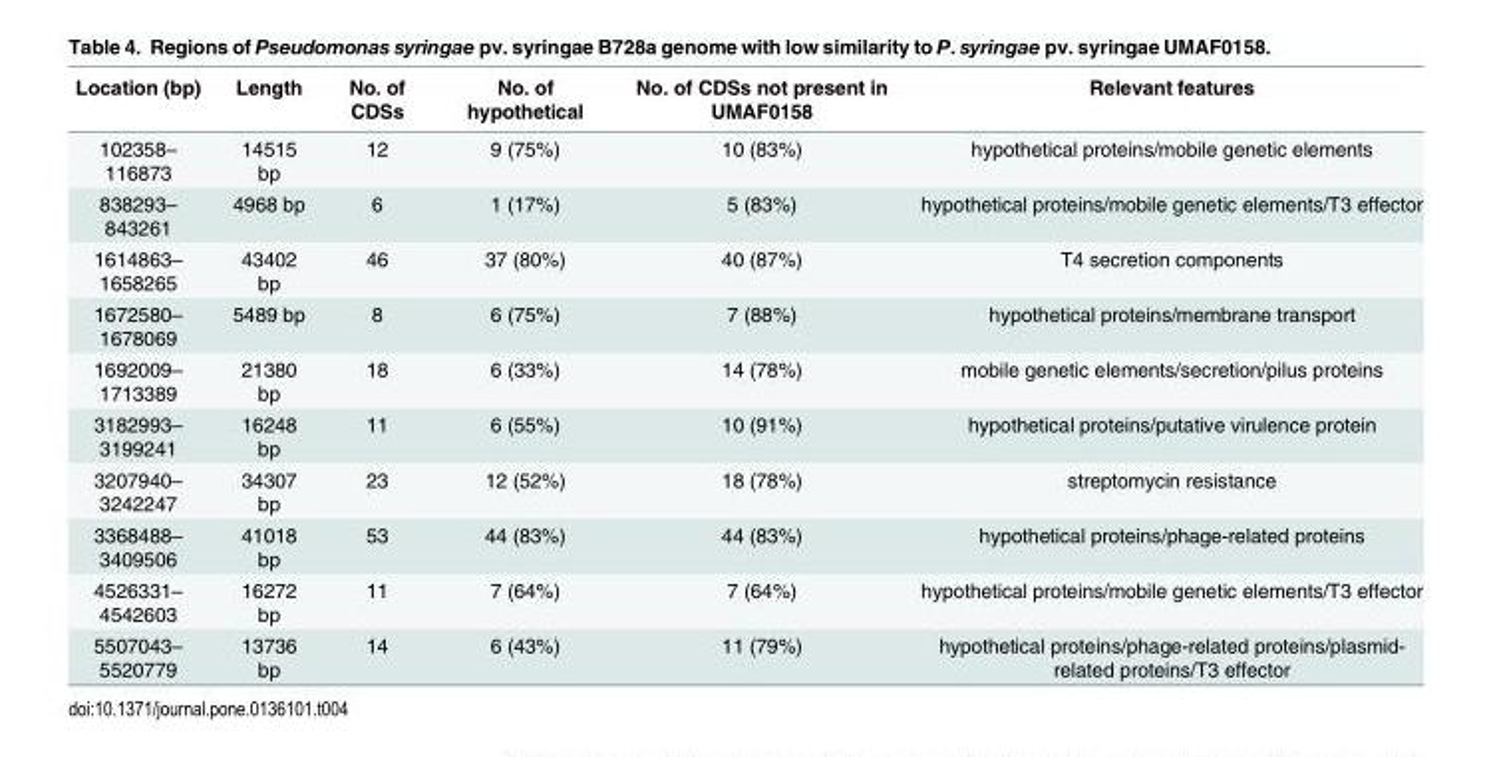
<table><thead><tr><td>Location (bp)</td><td>Length</td><td>No. of CDSs</td><td>No. of hypothetical</td><td>No. of CDSs not present in UMAF0158</td><td>Relevant features</td></tr></thead><tbody><tr><td>102358– 116873</td><td>14515 bp</td><td>12</td><td>9 (75%)</td><td>10 (83%)</td><td>hypothetical proteins/mobile genetic elements</td></tr><tr><td>838293– 843261</td><td>4968 bp</td><td>6</td><td>1 (17%)</td><td>5 (83%)</td><td>hypothetical proteins/mobile genetic elements/T3 effector</td></tr><tr><td>1614863– 1658265</td><td>43402 bp</td><td>46</td><td>37 (80%)</td><td>40 (87%)</td><td>T4 secretion components</td></tr><tr><td>1672580– 1678069</td><td>5489 bp</td><td>8</td><td>6 (75%)</td><td>7 (88%)</td><td>hypothetical proteins/membrane transport</td></tr><tr><td>1692009– 1713389</td><td>21380 bp</td><td>18</td><td>6 (33%)</td><td>14 (78%)</td><td>mobile genetic elements/secretion/pilus proteins</td></tr><tr><td>3182993– 3199241</td><td>16248 bp</td><td>11</td><td>6 (55%)</td><td>10 (91%)</td><td>hypothetical proteins/putative virulence protein</td></tr><tr><td>3207940– 3242247</td><td>34307 bp</td><td>23</td><td>12 (52%)</td><td>18 (78%)</td><td>streptomycin resistance</td></tr><tr><td>3368488– 3409506</td><td>41018 bp</td><td>53</td><td>44 (83%)</td><td>44 (83%)</td><td>hypothetical proteins/phage-related proteins</td></tr><tr><td>4526331– 4542603</td><td>16272 bp</td><td>11</td><td>7 (64%)</td><td>7 (64%)</td><td>hypothetical proteins/mobile genetic elements/T3 effector</td></tr><tr><td>5507043– 5520779</td><td>13736 bp</td><td>14</td><td>6 (43%)</td><td>11 (79%)</td><td>hypothetical proteins/phage-related proteins/plasmid- related proteins/T3 effector</td></tr></tbody></table>